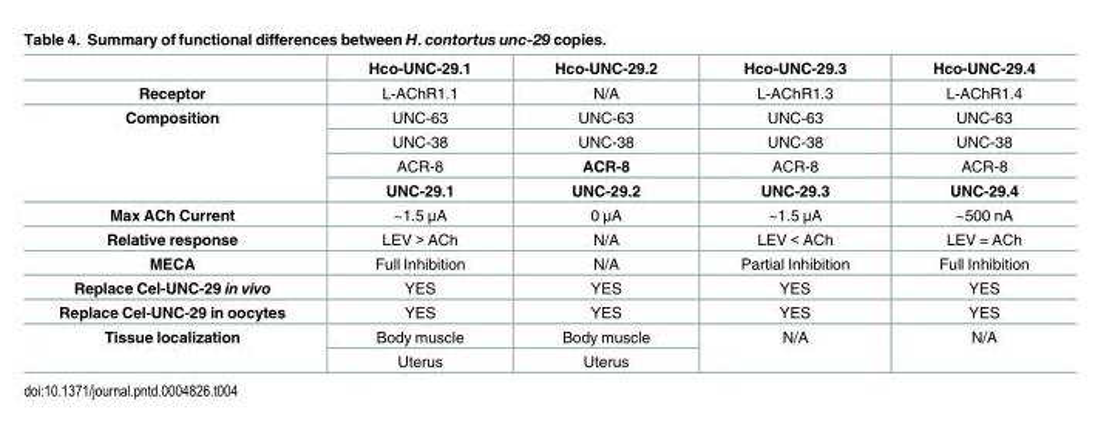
<table><thead><tr><td></td><td>Hco-UNC-29.1</td><td>Hco-UNC-29.2</td><td>Hco-UNC-29.3</td><td>Hco-UNC-29.4</td></tr></thead><tbody><tr><td>Receptor</td><td>L-AChR1.1</td><td>N/A</td><td>L-AChR1.3</td><td>L-AChR1.4</td></tr><tr><td rowspan="4">Composition</td><td>UNC-63</td><td>UNC-63</td><td>UNC-63</td><td>UNC-63</td></tr><tr><td>UNC-38</td><td>UNC-38</td><td>UNC-38</td><td>UNC-38</td></tr><tr><td>ACR-8</td><td>ACR-8</td><td>ACR-8</td><td>ACR-8</td></tr><tr><td>UNC-29.1</td><td>UNC-29.2</td><td>UNC-29.3</td><td>UNC-29.4</td></tr><tr><td>Max ACh Current</td><td>~1.5 μA</td><td>0 μA</td><td>~1.5 μA</td><td>~500 nA</td></tr><tr><td>Relative response</td><td>LEV &gt; ACh</td><td>N/A</td><td>LEV &lt; ACh</td><td>LEV = ACh</td></tr><tr><td>MECA</td><td>Full Inhibition</td><td>N/A</td><td>Partial Inhibition</td><td>Full Inhibition</td></tr><tr><td>Replace Cel-UNC-29 in vivo</td><td>YES</td><td>YES</td><td>YES</td><td>YES</td></tr><tr><td>Replace Cel-UNC-29 in oocytes</td><td>YES</td><td>YES</td><td>YES</td><td>YES</td></tr><tr><td rowspan="2">Tissue localization</td><td>Body muscle</td><td>Body muscle</td><td rowspan="2">N/A</td><td rowspan="2">N/A</td></tr><tr><td>Uterus</td><td>Uterus</td></tr></tbody></table>